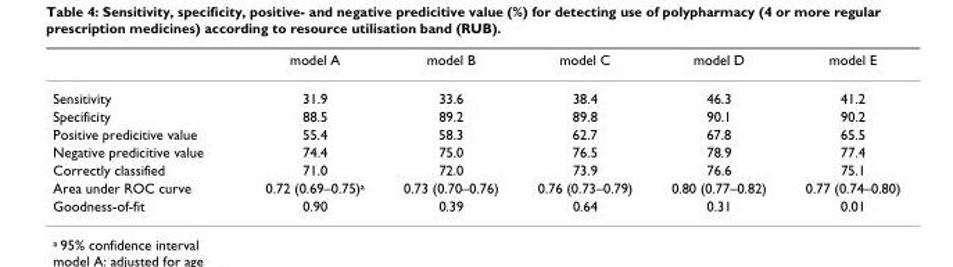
<table><thead><tr><td></td><td>model A</td><td>model B</td><td>model C</td><td>model D</td><td>model E</td></tr></thead><tbody><tr><td>Sensitivity</td><td>31.9</td><td>33.6</td><td>38.4</td><td>46.3</td><td>41.2</td></tr><tr><td>Specificity</td><td>88.5</td><td>89.2</td><td>89.8</td><td>90.1</td><td>90.2</td></tr><tr><td>Positive predicitive value</td><td>55.4</td><td>58.3</td><td>62.7</td><td>67.8</td><td>65.5</td></tr><tr><td>Negative predicitive value</td><td>74.4</td><td>75.0</td><td>76.5</td><td>78.9</td><td>77.4</td></tr><tr><td>Correctly classified</td><td>71.0</td><td>72.0</td><td>73.9</td><td>76.6</td><td>75.1</td></tr><tr><td>Area under ROC curve</td><td>0.72 (0.69–0.75)a</td><td>0.73 (0.70–0.76)</td><td>0.76 (0.73–0.79)</td><td>0.80 (0.77–0.82)</td><td>0.77 (0.74–0.80)</td></tr><tr><td>Goodness-of-fit</td><td>0.90</td><td>0.39</td><td>0.64</td><td>0.31</td><td>0.01</td></tr></tbody></table>